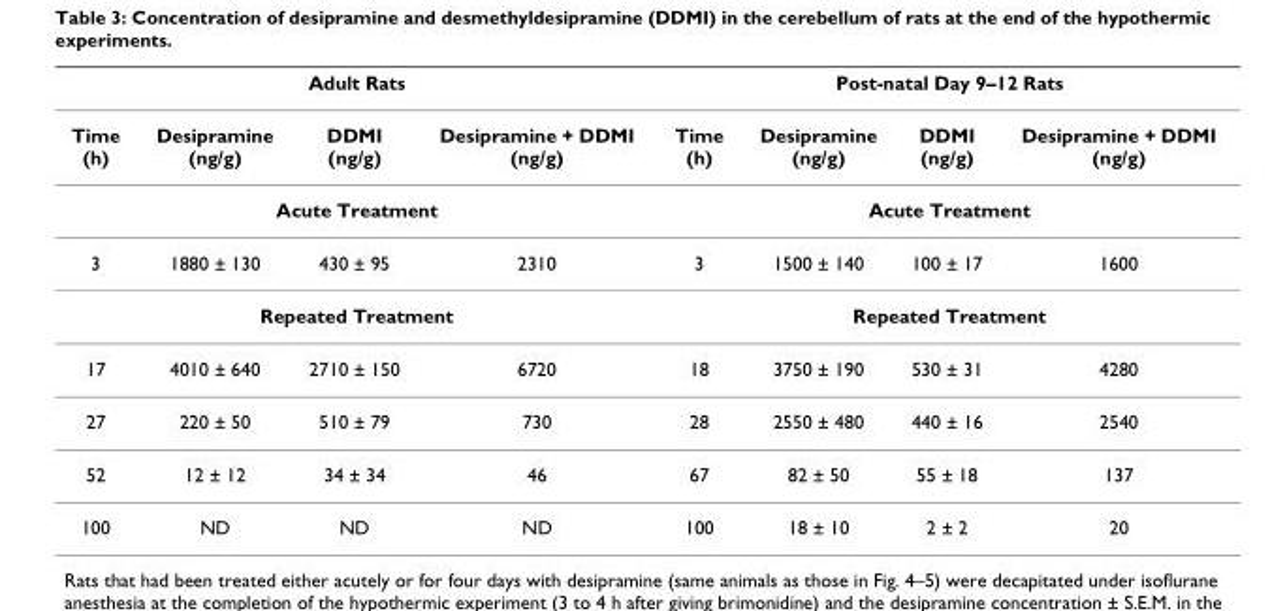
<table><thead><tr><td colspan="4">Adult Rats</td><td colspan="4">Post-natal Day 9–12 Rats</td></tr><tr><td>Time (h)</td><td>Desipramine (ng/g)</td><td>DDMI (ng/g)</td><td>Desipramine + DDMI (ng/g)</td><td>Time (h)</td><td>Desipramine (ng/g)</td><td>DDMI (ng/g)</td><td>Desipramine + DDMI (ng/g)</td></tr></thead><tbody><tr><td colspan="4">Acute Treatment</td><td colspan="4">Acute Treatment</td></tr><tr><td>3</td><td>1880 ± 130</td><td>430 ± 95</td><td>2310</td><td>3</td><td>1500 ± 140</td><td>100 ± 17</td><td>1600</td></tr><tr><td colspan="4">Repeated Treatment</td><td colspan="4">Repeated Treatment</td></tr><tr><td>17</td><td>4010 ± 640</td><td>2710 ± 150</td><td>6720</td><td>18</td><td>3750 ± 190</td><td>530 ± 31</td><td>4280</td></tr><tr><td>27</td><td>220 ± 50</td><td>510 ± 79</td><td>730</td><td>28</td><td>2550 ± 480</td><td>440 ± 16</td><td>2540</td></tr><tr><td>52</td><td>12 ± 12</td><td>34 ± 34</td><td>46</td><td>67</td><td>82 ± 50</td><td>55 ± 18</td><td>137</td></tr><tr><td>100</td><td>ND</td><td>ND</td><td>ND</td><td>100</td><td>18 ± 10</td><td>2 ± 2</td><td>20</td></tr></tbody></table>